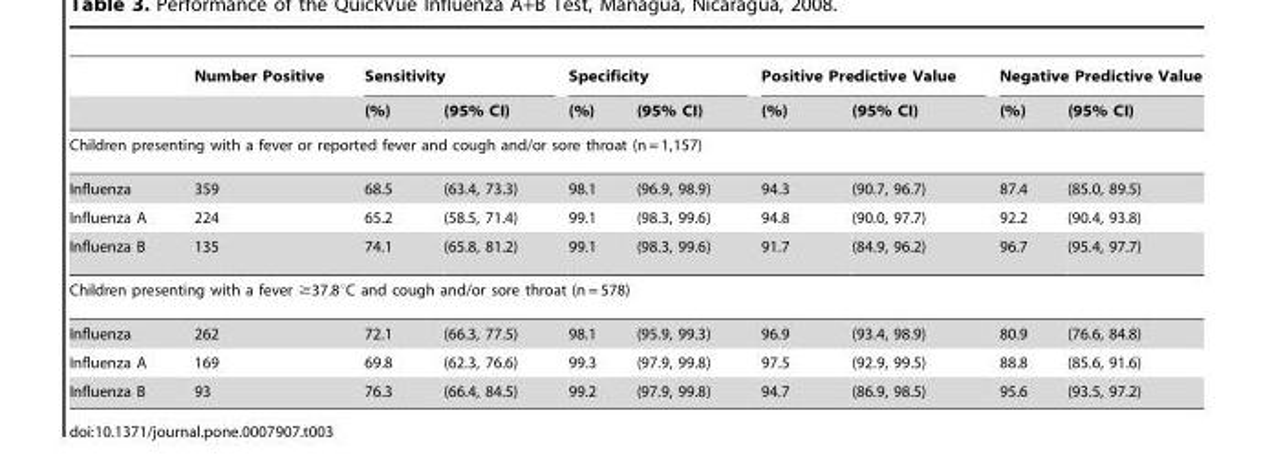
<table><thead><tr><td rowspan="2"></td><td rowspan="2">Number Positive</td><td colspan="2">Sensitivity</td><td colspan="2">Specificity</td><td colspan="2">Positive Predictive Value</td><td colspan="2">Negative Predictive Value</td></tr><tr><td>(%)</td><td>(95% CI)</td><td>(%)</td><td>(95% CI)</td><td>(%)</td><td>(95% CI)</td><td>(%)</td><td>(95% CI)</td></tr></thead><tbody><tr><td colspan="10">Children presenting with a fever or reported fever and cough and/or sore throat (n = 1,157)</td></tr><tr><td>Influenza</td><td>359</td><td>68.5</td><td>(63.4, 73.3)</td><td>98.1</td><td>(96.9, 98.9)</td><td>94.3</td><td>(90.7, 96.7)</td><td>87.4</td><td>(85.0, 89.5)</td></tr><tr><td>Influenza A</td><td>224</td><td>65.2</td><td>(58.5, 71.4)</td><td>99.1</td><td>(98.3, 99.6)</td><td>94.8</td><td>(90.0, 97.7)</td><td>92.2</td><td>(90.4, 93.8)</td></tr><tr><td>Influenza B</td><td>135</td><td>74.1</td><td>(65.8, 81.2)</td><td>99.1</td><td>(98.3, 99.6)</td><td>91.7</td><td>(84.9, 96.2)</td><td>96.7</td><td>(95.4, 97.7)</td></tr><tr><td colspan="10">Children presenting with a fever ≥37.8°C and cough and/or sore throat (n = 578)</td></tr><tr><td>Influenza</td><td>262</td><td>72.1</td><td>(66.3, 77.5)</td><td>98.1</td><td>(95.9, 99.3)</td><td>96.9</td><td>(93.4, 98.9)</td><td>80.9</td><td>(76.6, 84.8)</td></tr><tr><td>Influenza A</td><td>169</td><td>69.8</td><td>(62.3, 76.6)</td><td>99.3</td><td>(97.9, 99.8)</td><td>97.5</td><td>(92.9, 99.5)</td><td>88.8</td><td>(85.6, 91.6)</td></tr><tr><td>Influenza B</td><td>93</td><td>76.3</td><td>(66.4, 84.5)</td><td>99.2</td><td>(97.9, 99.8)</td><td>94.7</td><td>(86.9, 98.5)</td><td>95.6</td><td>(93.5, 97.2)</td></tr></tbody></table>